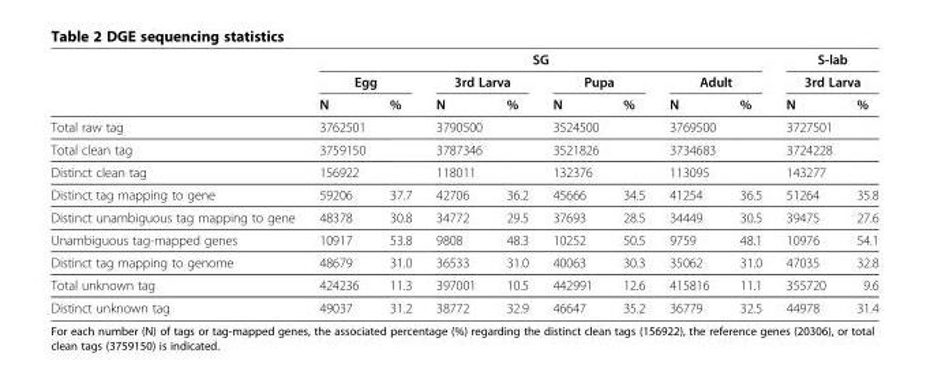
<table><thead><tr><td rowspan="3"></td><td colspan="8">SG</td><td rowspan="2" colspan="2">S-lab 3rd Larva</td></tr><tr><td colspan="2">Egg</td><td colspan="2">3rd Larva</td><td colspan="2">Pupa</td><td colspan="2">Adult</td></tr><tr><td>N</td><td>%</td><td>N</td><td>%</td><td>N</td><td>%</td><td>N</td><td>%</td><td>N</td><td>%</td></tr></thead><tbody><tr><td>Total raw tag</td><td>3762501</td><td></td><td>3790500</td><td></td><td>3524500</td><td></td><td>3769500</td><td></td><td>3727501</td><td></td></tr><tr><td>Total clean tag</td><td>3759150</td><td></td><td>3787346</td><td></td><td>3521826</td><td></td><td>3734683</td><td></td><td>3724228</td><td></td></tr><tr><td>Distinct clean tag</td><td>156922</td><td></td><td>118011</td><td></td><td>132376</td><td></td><td>113095</td><td></td><td>143277</td><td></td></tr><tr><td>Distinct tag mapping to gene</td><td>59206</td><td>37.7</td><td>42706</td><td>36.2</td><td>45666</td><td>34.5</td><td>41254</td><td>36.5</td><td>51264</td><td>35.8</td></tr><tr><td>Distinct unambiguous tag mapping to gene</td><td>48378</td><td>30.8</td><td>34772</td><td>29.5</td><td>37693</td><td>28.5</td><td>34449</td><td>30.5</td><td>39475</td><td>27.6</td></tr><tr><td>Unambiguous tag-mapped genes</td><td>10917</td><td>53.8</td><td>9808</td><td>48.3</td><td>10252</td><td>50.5</td><td>9759</td><td>48.1</td><td>10976</td><td>54.1</td></tr><tr><td>Distinct tag mapping to genome</td><td>48679</td><td>31.0</td><td>36533</td><td>31.0</td><td>40063</td><td>30.3</td><td>35062</td><td>31.0</td><td>47035</td><td>32.8</td></tr><tr><td>Total unknown tag</td><td>424236</td><td>11.3</td><td>397001</td><td>10.5</td><td>442991</td><td>12.6</td><td>415816</td><td>11.1</td><td>355720</td><td>9.6</td></tr><tr><td>Distinct unknown tag</td><td>49037</td><td>31.2</td><td>38772</td><td>32.9</td><td>46647</td><td>35.2</td><td>36779</td><td>32.5</td><td>44978</td><td>31.4</td></tr></tbody></table>